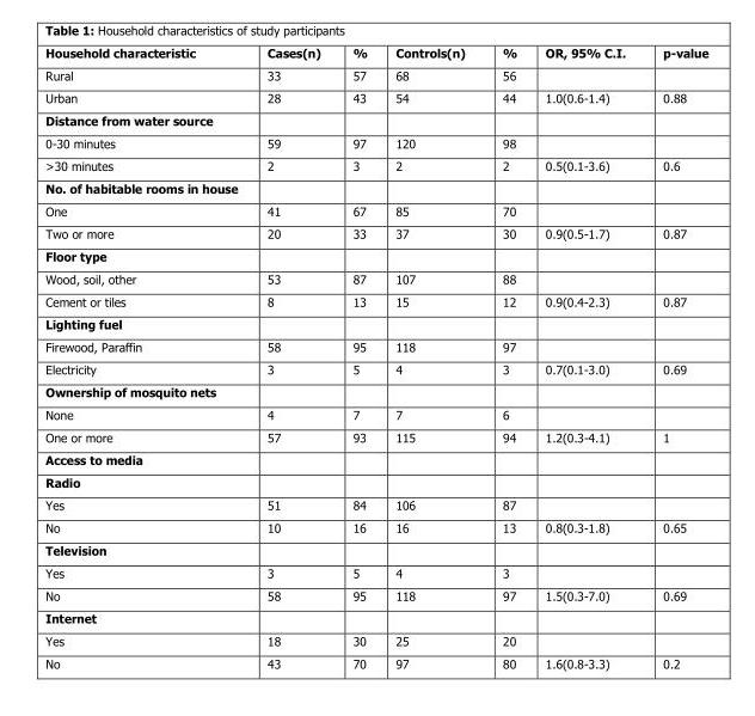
<table><thead><tr><td>Household characteristic</td><td>Cases(n)</td><td>%</td><td>Controls(n)</td><td>%</td><td>OR, 95% C.I.</td><td>p-value</td></tr></thead><tbody><tr><td>Rural</td><td>33</td><td>57</td><td>68</td><td>56</td><td></td><td></td></tr><tr><td>Urban</td><td>28</td><td>43</td><td>54</td><td>44</td><td>1.0(0.6-1.4)</td><td>0.88</td></tr><tr><td colspan="7">Distance from water source</td></tr><tr><td>0-30 minutes</td><td>59</td><td>97</td><td>120</td><td>98</td><td></td><td></td></tr><tr><td>&gt;30 minutes</td><td>2</td><td>3</td><td>2</td><td>2</td><td>0.5(0.1-3.6)</td><td>0.6</td></tr><tr><td colspan="7">No. of habitable rooms in house</td></tr><tr><td>One</td><td>41</td><td>67</td><td>85</td><td>70</td><td></td><td></td></tr><tr><td>Two or more</td><td>20</td><td>33</td><td>37</td><td>30</td><td>0.9(0.5-1.7)</td><td>0.87</td></tr><tr><td colspan="7">Floor type</td></tr><tr><td>Wood, soil, other</td><td>53</td><td>87</td><td>107</td><td>88</td><td></td><td></td></tr><tr><td>Cement or tiles</td><td>8</td><td>13</td><td>15</td><td>12</td><td>0.9(0.4-2.3)</td><td>0.87</td></tr><tr><td colspan="7">Lighting fuel</td></tr><tr><td>Firewood, Paraffin</td><td>58</td><td>95</td><td>118</td><td>97</td><td></td><td></td></tr><tr><td>Electricity</td><td>3</td><td>5</td><td>4</td><td>3</td><td>0.7(0.1-3.0)</td><td>0.69</td></tr><tr><td colspan="7">Ownership of mosquito nets</td></tr><tr><td>None</td><td>4</td><td>7</td><td>7</td><td>6</td><td></td><td></td></tr><tr><td>One or more</td><td>57</td><td>93</td><td>115</td><td>94</td><td>1.2(0.3-4.1)</td><td>1</td></tr><tr><td colspan="7">Access to media</td></tr><tr><td colspan="7">Radio</td></tr><tr><td>Yes</td><td>51</td><td>84</td><td>106</td><td>87</td><td></td><td></td></tr><tr><td>No</td><td>10</td><td>16</td><td>16</td><td>13</td><td>0.8(0.3-1.8)</td><td>0.65</td></tr><tr><td colspan="7">Television</td></tr><tr><td>Yes</td><td>3</td><td>5</td><td>4</td><td>3</td><td></td><td></td></tr><tr><td>No</td><td>58</td><td>95</td><td>118</td><td>97</td><td>1.5(0.3-7.0)</td><td>0.69</td></tr><tr><td colspan="7">Internet</td></tr><tr><td>Yes</td><td>18</td><td>30</td><td>25</td><td>20</td><td></td><td></td></tr><tr><td>No</td><td>43</td><td>70</td><td>97</td><td>80</td><td>1.6(0.8-3.3)</td><td>0.2</td></tr></tbody></table>